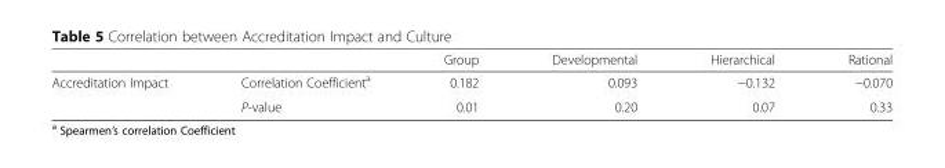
<table><thead><tr><td></td><td></td><td>Group</td><td>Developmental</td><td>Hierarchical</td><td>Rational</td></tr></thead><tbody><tr><td rowspan="2">Accreditation Impact</td><td>Correlation Coefficient<sup>a</sup></td><td>0.182</td><td>0.093</td><td>−0.132</td><td>−0.070</td></tr><tr><td>P-value</td><td>0.01</td><td>0.20</td><td>0.07</td><td>0.33</td></tr></tbody></table>